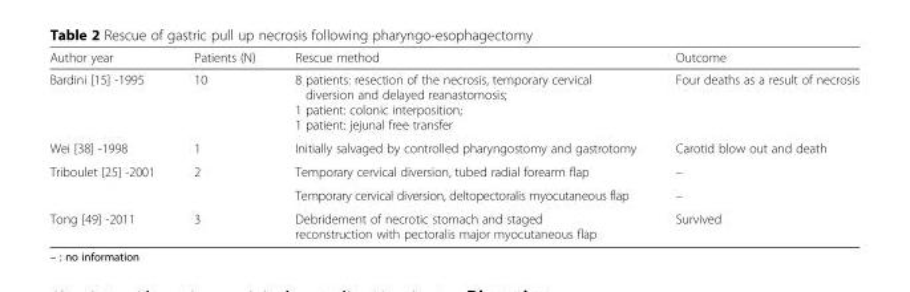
<table><thead><tr><td>Author year</td><td>Patients (N)</td><td>Rescue method</td><td>Outcome</td></tr></thead><tbody><tr><td>Bardini [15] -1995</td><td>10</td><td>8 patients: resection of the necrosis, temporary cervical diversion and delayed reanastomosis; 1 patient: colonic interposition; 1 patient: jejunal free transfer</td><td>Four deaths as a result of necrosis</td></tr><tr><td>Wei [38] -1998</td><td>1</td><td>Initially salvaged by controlled pharyngostomy and gastrotomy</td><td>Carotid blow out and death</td></tr><tr><td rowspan="2">Triboulet [25] -2001</td><td rowspan="2">2</td><td>Temporary cervical diversion, tubed radial forearm flap</td><td>–</td></tr><tr><td>Temporary cervical diversion, deltopectoralis myocutaneous flap</td><td>–</td></tr><tr><td>Tong [49] -2011</td><td>3</td><td>Debridement of necrotic stomach and staged reconstruction with pectoralis major myocutaneous flap</td><td>Survived</td></tr></tbody></table>